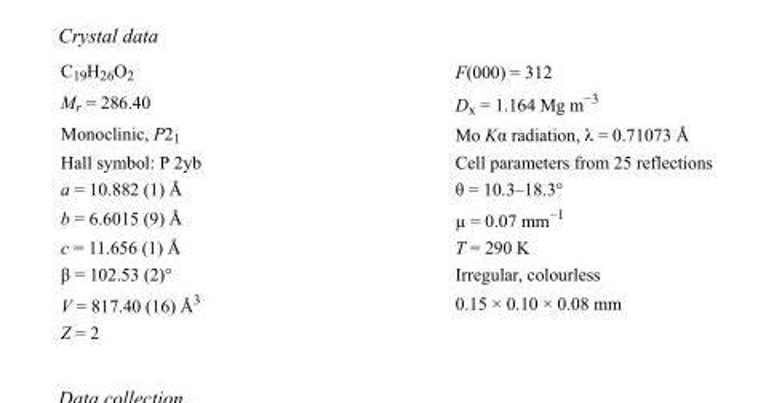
<table><tbody><tr><td>C<sub>19</sub>H<sub>26</sub>O<sub>2</sub></td><td>F(000) = 312</td></tr><tr><td>M<sub>r</sub> = 286.40</td><td>D<sub>x</sub> = 1.164 Mg m<sup>−3</sup></td></tr><tr><td>Monoclinic, P2<sub>1</sub></td><td>Mo Kα radiation, λ = 0.71073 Å</td></tr><tr><td>Hall symbol: P 2yb</td><td>Cell parameters from 25 reflections</td></tr><tr><td>a = 10.882 (1) Å</td><td>θ = 10.3–18.3°</td></tr><tr><td>b = 6.6015 (9) Å</td><td>µ = 0.07 mm<sup>−1</sup></td></tr><tr><td>c = 11.656 (1) Å</td><td>T = 290 K</td></tr><tr><td>β = 102.53 (2)°</td><td>Irregular, colourless</td></tr><tr><td>V = 817.40 (16) Å<sup>3</sup></td><td>0.15 × 0.10 × 0.08 mm</td></tr><tr><td>Z = 2</td><td></td></tr></tbody></table>